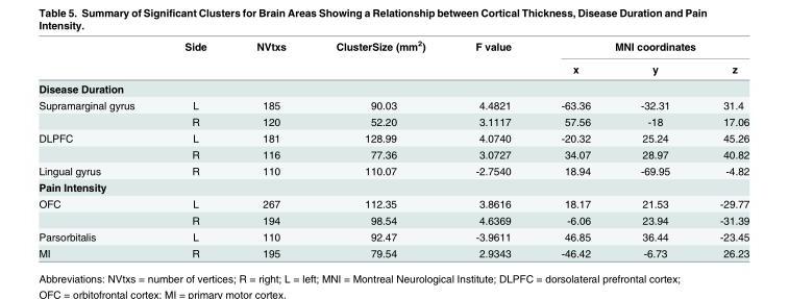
<table><thead><tr><td rowspan="2"></td><td rowspan="2">Side</td><td rowspan="2">NVtxs</td><td rowspan="2">ClusterSize (mm<sup>2</sup>)</td><td rowspan="2">F value</td><td colspan="3">MNI coordinates</td></tr><tr><td>x</td><td>y</td><td>z</td></tr></thead><tbody><tr><td colspan="8">Disease Duration</td></tr><tr><td rowspan="2">Supramarginal gyrus</td><td>L</td><td>185</td><td>90.03</td><td>4.4821</td><td>-63.36</td><td>-32.31</td><td>31.4</td></tr><tr><td>R</td><td>120</td><td>52.20</td><td>3.1117</td><td>57.56</td><td>-18</td><td>17.06</td></tr><tr><td rowspan="2">DLPFC</td><td>L</td><td>181</td><td>128.99</td><td>4.0740</td><td>-20.32</td><td>25.24</td><td>45.26</td></tr><tr><td>R</td><td>116</td><td>77.36</td><td>3.0727</td><td>34.07</td><td>28.97</td><td>40.82</td></tr><tr><td>Lingual gyrus</td><td>R</td><td>110</td><td>110.07</td><td>-2.7540</td><td>18.94</td><td>-69.95</td><td>-4.82</td></tr><tr><td colspan="8">Pain Intensity</td></tr><tr><td rowspan="2">OFC</td><td>L</td><td>267</td><td>112.35</td><td>3.8616</td><td>18.17</td><td>21.53</td><td>-29.77</td></tr><tr><td>R</td><td>194</td><td>98.54</td><td>4.6369</td><td>-6.06</td><td>23.94</td><td>-31.39</td></tr><tr><td>Parsorbitalis</td><td>L</td><td>110</td><td>92.47</td><td>-3.9611</td><td>46.85</td><td>36.44</td><td>-23.45</td></tr><tr><td>MI</td><td>R</td><td>195</td><td>79.54</td><td>2.9343</td><td>-46.42</td><td>-6.73</td><td>26.23</td></tr></tbody></table>